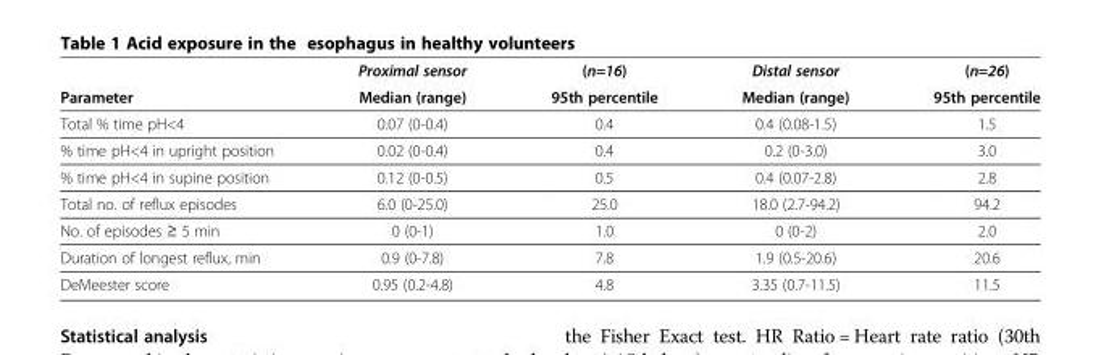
<table><thead><tr><td rowspan="2">Parameter</td><td rowspan="2">Proximal sensor Median (range)</td><td rowspan="2">(n=16) 95th percentile</td><td rowspan="2">Distal sensor Median (range)</td><td rowspan="2">(n=26) 95th percentile</td></tr><tr></tr></thead><tbody><tr><td>Total % time pH&lt;4</td><td>0.07 (0-0.4)</td><td>0.4</td><td>0.4 (0.08-1.5)</td><td>1.5</td></tr><tr><td>% time pH&lt;4 in upright position</td><td>0.02 (0-0.4)</td><td>0.4</td><td>0.2 (0-3.0)</td><td>3.0</td></tr><tr><td>% time pH&lt;4 in supine position</td><td>0.12 (0-0.5)</td><td>0.5</td><td>0.4 (0.07-2.8)</td><td>2.8</td></tr><tr><td>Total no. of reflux episodes</td><td>6.0 (0-25.0)</td><td>25.0</td><td>18.0 (2.7-94.2)</td><td>94.2</td></tr><tr><td>No. of episodes ≥ 5 min</td><td>0 (0-1)</td><td>1.0</td><td>0 (0-2)</td><td>2.0</td></tr><tr><td>Duration of longest reflux, min</td><td>0.9 (0-7.8)</td><td>7.8</td><td>1.9 (0.5-20.6)</td><td>20.6</td></tr><tr><td>DeMeester score</td><td>0.95 (0.2-4.8)</td><td>4.8</td><td>3.35 (0.7-11.5)</td><td>11.5</td></tr></tbody></table>